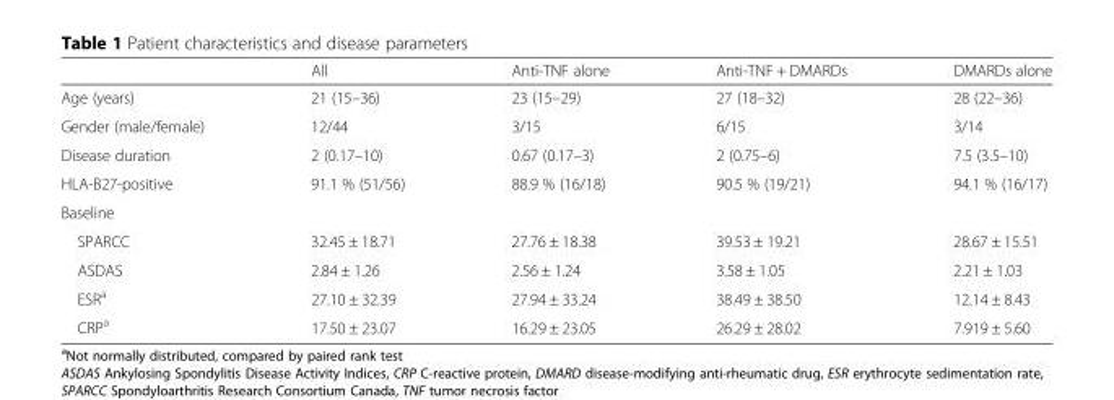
<table><thead><tr><td></td><td>All</td><td>Anti-TNF alone</td><td>Anti-TNF + DMARDs</td><td>DMARDs alone</td></tr></thead><tbody><tr><td>Age (years)</td><td>21 (15–36)</td><td>23 (15–29)</td><td>27 (18–32)</td><td>28 (22–36)</td></tr><tr><td>Gender (male/female)</td><td>12/44</td><td>3/15</td><td>6/15</td><td>3/14</td></tr><tr><td>Disease duration</td><td>2 (0.17–10)</td><td>0.67 (0.17–3)</td><td>2 (0.75–6)</td><td>7.5 (3.5–10)</td></tr><tr><td>HLA-B27-positive</td><td>91.1 % (51/56)</td><td>88.9 % (16/18)</td><td>90.5 % (19/21)</td><td>94.1 % (16/17)</td></tr><tr><td colspan="5">Baseline</td></tr><tr><td>SPARCC</td><td>32.45 ± 18.71</td><td>27.76 ± 18.38</td><td>39.53 ± 19.21</td><td>28.67 ± 15.51</td></tr><tr><td>ASDAS</td><td>2.84 ± 1.26</td><td>2.56 ± 1.24</td><td>3.58 ± 1.05</td><td>2.21 ± 1.03</td></tr><tr><td>ESR<sup>a</sup></td><td>27.10 ± 32.39</td><td>27.94 ± 33.24</td><td>38.49 ± 38.50</td><td>12.14 ± 8.43</td></tr><tr><td>CRP<sup>a</sup></td><td>17.50 ± 23.07</td><td>16.29 ± 23.05</td><td>26.29 ± 28.02</td><td>7.919 ± 5.60</td></tr></tbody></table>